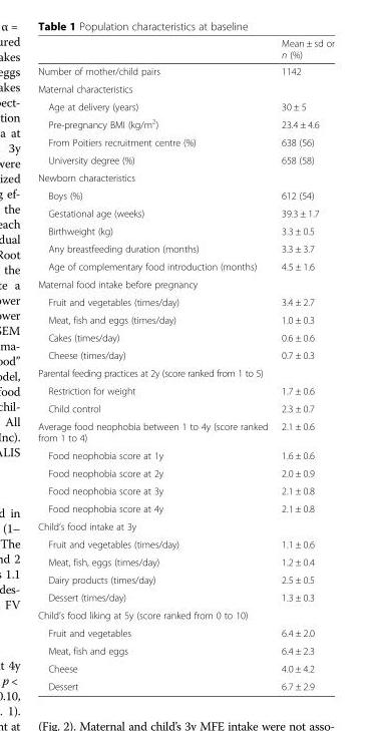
<table><thead><tr><td></td><td>Mean ± sd or n (%)</td></tr></thead><tbody><tr><td>Number of mother/child pairs</td><td>1142</td></tr><tr><td colspan="2">Maternal characteristics</td></tr><tr><td>Age at delivery (years)</td><td>30 ± 5</td></tr><tr><td>Pre-pregnancy BMI (kg/m<sup>2</sup>)</td><td>23.4 ± 4.6</td></tr><tr><td>From Poitiers recruitment centre (%)</td><td>638 (56)</td></tr><tr><td>University degree (%)</td><td>658 (58)</td></tr><tr><td colspan="2">Newborn characteristics</td></tr><tr><td>Boys (%)</td><td>612 (54)</td></tr><tr><td>Gestational age (weeks)</td><td>39.3 ± 1.7</td></tr><tr><td>Birthweight (kg)</td><td>3.3 ± 0.5</td></tr><tr><td>Any breastfeeding duration (months)</td><td>3.3 ± 3.7</td></tr><tr><td>Age of complementary food introduction (months)</td><td>4.5 ± 1.6</td></tr><tr><td colspan="2">Maternal food intake before pregnancy</td></tr><tr><td>Fruit and vegetables (times/day)</td><td>3.4 ± 2.7</td></tr><tr><td>Meat, fish and eggs (times/day)</td><td>1.0 ± 0.3</td></tr><tr><td>Cakes (times/day)</td><td>0.6 ± 0.6</td></tr><tr><td>Cheese (times/day)</td><td>0.7 ± 0.3</td></tr><tr><td colspan="2">Parental feeding practices at 2y (score ranked from 1 to 5)</td></tr><tr><td>Restriction for weight</td><td>1.7 ± 0.6</td></tr><tr><td>Child control</td><td>2.3 ± 0.7</td></tr><tr><td>Average food neophobia between 1 to 4y (score ranked from 1 to 4)</td><td>2.1 ± 0.6</td></tr><tr><td>Food neophobia score at 1y</td><td>1.6 ± 0.6</td></tr><tr><td>Food neophobia score at 2y</td><td>2.0 ± 0.9</td></tr><tr><td>Food neophobia score at 3y</td><td>2.1 ± 0.8</td></tr><tr><td>Food neophobia score at 4y</td><td>2.1 ± 0.8</td></tr><tr><td colspan="2">Child’s food intake at 3y</td></tr><tr><td>Fruit and vegetables (times/day)</td><td>1.1 ± 0.6</td></tr><tr><td>Meat, fish, eggs (times/day)</td><td>1.2 ± 0.4</td></tr><tr><td>Dairy products (times/day)</td><td>2.5 ± 0.5</td></tr><tr><td>Dessert (times/day)</td><td>1.3 ± 0.3</td></tr><tr><td colspan="2">Child’s food liking at 5y (score ranked from 0 to 10)</td></tr><tr><td>Fruit and vegetables</td><td>6.4 ± 2.0</td></tr><tr><td>Meat, fish and eggs</td><td>6.4 ± 2.3</td></tr><tr><td>Cheese</td><td>4.0 ± 4.2</td></tr><tr><td>Dessert</td><td>6.7 ± 2.9</td></tr></tbody></table>